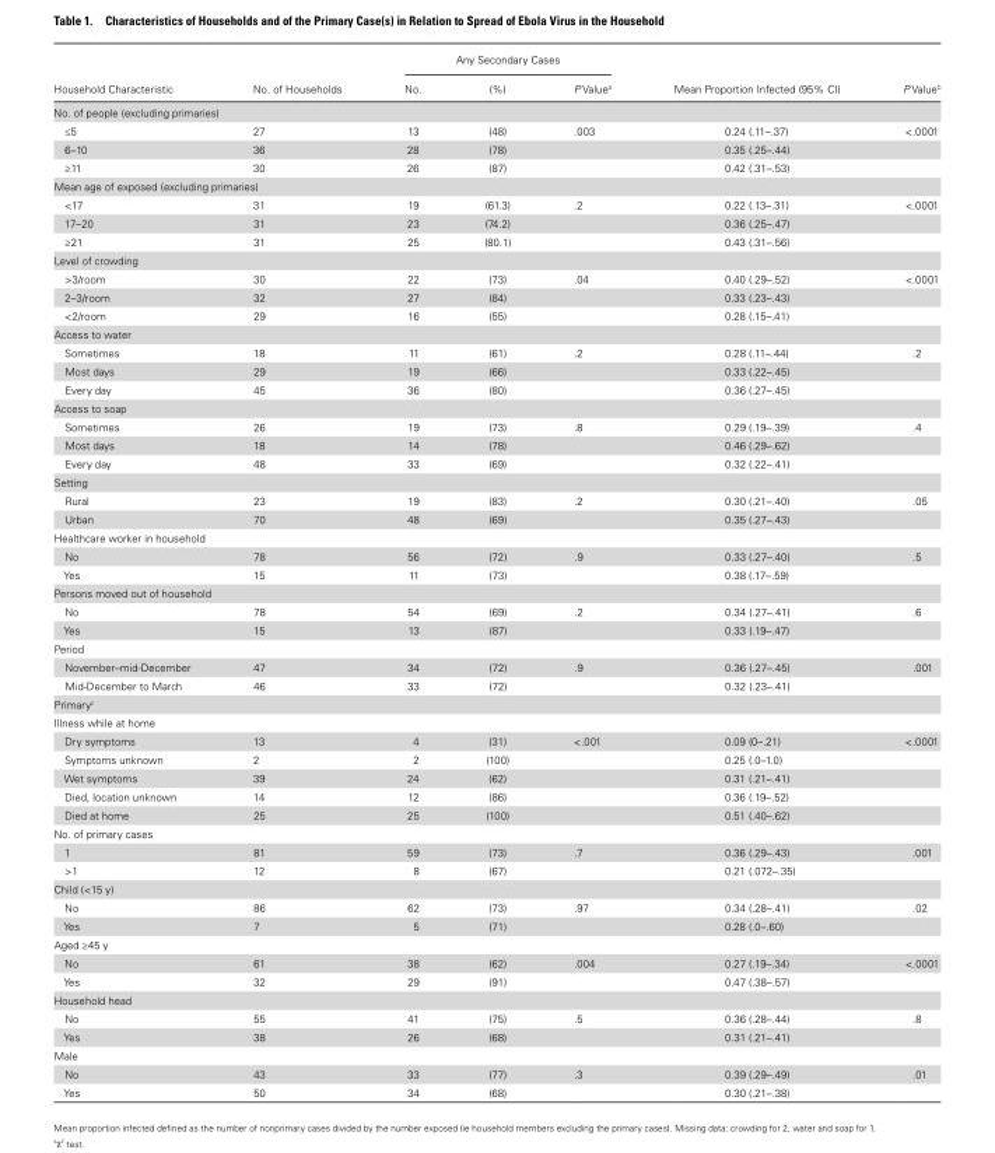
<table><thead><tr><td rowspan="2">Household Characteristic</td><td rowspan="2">No. of Households</td><td colspan="3">Any Secondary Cases</td><td rowspan="2">Mean Proportion Infected (95% CI)</td><td rowspan="2">P Value<sup>b</sup></td></tr><tr><td>No.</td><td>(%)</td><td>P Value<sup>a</sup></td></tr></thead><tbody><tr><td colspan="7">No. of people (excluding primaries)</td></tr><tr><td>≤5</td><td>27</td><td>13</td><td>(48)</td><td>.003</td><td>0.24 (.11–.37)</td><td>&lt;.0001</td></tr><tr><td>6–10</td><td>36</td><td>28</td><td>(78)</td><td></td><td>0.35 (.25–.44)</td><td></td></tr><tr><td>≥11</td><td>30</td><td>26</td><td>(87)</td><td></td><td>0.42 (.31–.53)</td><td></td></tr><tr><td colspan="7">Mean age of exposed (excluding primaries)</td></tr><tr><td>&lt;17</td><td>31</td><td>19</td><td>(61.3)</td><td>.2</td><td>0.22 (.13–.31)</td><td>&lt;.0001</td></tr><tr><td>17–20</td><td>31</td><td>23</td><td>(74.2)</td><td></td><td>0.36 (.25–.47)</td><td></td></tr><tr><td>≥21</td><td>31</td><td>25</td><td>(80.1)</td><td></td><td>0.43 (.31–.56)</td><td></td></tr><tr><td colspan="7">Level of crowding</td></tr><tr><td>&gt;3/room</td><td>30</td><td>22</td><td>(73)</td><td>.04</td><td>0.40 (.29–.52)</td><td>&lt;.0001</td></tr><tr><td>2–3/room</td><td>32</td><td>27</td><td>(84)</td><td></td><td>0.33 (.23–.43)</td><td></td></tr><tr><td>&lt;2/room</td><td>29</td><td>16</td><td>(55)</td><td></td><td>0.28 (.15–.41)</td><td></td></tr><tr><td colspan="7">Access to water</td></tr><tr><td>Sometimes</td><td>18</td><td>11</td><td>(61)</td><td>.2</td><td>0.28 (.11–.44)</td><td>.2</td></tr><tr><td>Most days</td><td>29</td><td>19</td><td>(66)</td><td></td><td>0.33 (.22–.45)</td><td></td></tr><tr><td>Every day</td><td>45</td><td>36</td><td>(80)</td><td></td><td>0.36 (.27–.45)</td><td></td></tr><tr><td colspan="7">Access to soap</td></tr><tr><td>Sometimes</td><td>26</td><td>19</td><td>(73)</td><td>.8</td><td>0.29 (.19–.39)</td><td>.4</td></tr><tr><td>Most days</td><td>18</td><td>14</td><td>(78)</td><td></td><td>0.46 (.29–.62)</td><td></td></tr><tr><td>Every day</td><td>48</td><td>33</td><td>(69)</td><td></td><td>0.32 (.22–.41)</td><td></td></tr><tr><td colspan="7">Setting</td></tr><tr><td>Rural</td><td>23</td><td>19</td><td>(83)</td><td>.2</td><td>0.30 (.21–.40)</td><td>.05</td></tr><tr><td>Urban</td><td>70</td><td>48</td><td>(69)</td><td></td><td>0.35 (.27–.43)</td><td></td></tr><tr><td colspan="7">Healthcare worker in household</td></tr><tr><td>No</td><td>78</td><td>56</td><td>(72)</td><td>.9</td><td>0.33 (.27–.40)</td><td>.5</td></tr><tr><td>Yes</td><td>15</td><td>11</td><td>(73)</td><td></td><td>0.38 (.17–.59)</td><td></td></tr><tr><td colspan="7">Persons moved out of household</td></tr><tr><td>No</td><td>78</td><td>54</td><td>(69)</td><td>.2</td><td>0.34 (.27–.41)</td><td>.6</td></tr><tr><td>Yes</td><td>15</td><td>13</td><td>(87)</td><td></td><td>0.33 (.19–.47)</td><td></td></tr><tr><td colspan="7">Period</td></tr><tr><td>November–mid-December</td><td>47</td><td>34</td><td>(72)</td><td>.9</td><td>0.36 (.27–.45)</td><td>.001</td></tr><tr><td>Mid-December to March</td><td>46</td><td>33</td><td>(72)</td><td></td><td>0.32 (.23–.41)</td><td></td></tr><tr><td colspan="7">Primary<sup>c</sup></td></tr><tr><td colspan="7">Illness while at home</td></tr><tr><td>Dry symptoms</td><td>13</td><td>4</td><td>(31)</td><td>&lt;.001</td><td>0.09 (0–.21)</td><td>&lt;.0001</td></tr><tr><td>Symptoms unknown</td><td>2</td><td>2</td><td>(100)</td><td></td><td>0.25 (.0–1.0)</td><td></td></tr><tr><td>Wet symptoms</td><td>39</td><td>24</td><td>(62)</td><td></td><td>0.31 (.21–.41)</td><td></td></tr><tr><td>Died, location unknown</td><td>14</td><td>12</td><td>(86)</td><td></td><td>0.36 (.19–.52)</td><td></td></tr><tr><td>Died at home</td><td>25</td><td>25</td><td>(100)</td><td></td><td>0.51 (.40–.62)</td><td></td></tr><tr><td colspan="7">No. of primary cases</td></tr><tr><td>1</td><td>81</td><td>59</td><td>(73)</td><td>.7</td><td>0.36 (.29–.43)</td><td>.001</td></tr><tr><td>&gt;1</td><td>12</td><td>8</td><td>(67)</td><td></td><td>0.21 (.072–.35)</td><td></td></tr><tr><td colspan="7">Child (&lt;15 y)</td></tr><tr><td>No</td><td>86</td><td>62</td><td>(73)</td><td>.97</td><td>0.34 (.28–.41)</td><td>.02</td></tr><tr><td>Yes</td><td>7</td><td>5</td><td>(71)</td><td></td><td>0.28 (.0–.60)</td><td></td></tr><tr><td colspan="7">Aged ≥45 y</td></tr><tr><td>No</td><td>61</td><td>38</td><td>(62)</td><td>.004</td><td>0.27 (.19–.34)</td><td>&lt;.0001</td></tr><tr><td>Yes</td><td>32</td><td>29</td><td>(91)</td><td></td><td>0.47 (.38–.57)</td><td></td></tr><tr><td colspan="7">Household head</td></tr><tr><td>No</td><td>55</td><td>41</td><td>(75)</td><td>.5</td><td>0.36 (.28–.44)</td><td>.8</td></tr><tr><td>Yes</td><td>38</td><td>26</td><td>(68)</td><td></td><td>0.31 (.21–.41)</td><td></td></tr><tr><td colspan="7">Male</td></tr><tr><td>No</td><td>43</td><td>33</td><td>(77)</td><td>.3</td><td>0.39 (.29–.49)</td><td>.01</td></tr><tr><td>Yes</td><td>50</td><td>34</td><td>(68)</td><td></td><td>0.30 (.21–.38)</td><td></td></tr></tbody></table>